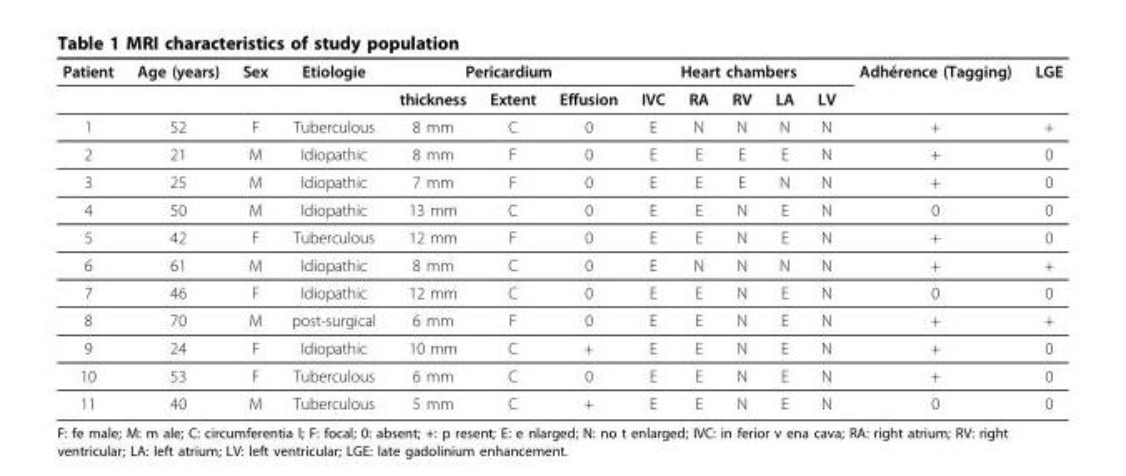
<table><thead><tr><td rowspan="2">Patient</td><td rowspan="2">Age (years)</td><td rowspan="2">Sex</td><td rowspan="2">Etiologie</td><td colspan="3">Pericardium</td><td colspan="5">Heart chambers</td><td rowspan="2">Adhérence (Tagging)</td><td rowspan="2">LGE</td></tr><tr><td>thickness</td><td>Extent</td><td>Effusion</td><td>IVC</td><td>RA</td><td>RV</td><td>LA</td><td>LV</td></tr></thead><tbody><tr><td>1</td><td>52</td><td>F</td><td>Tuberculous</td><td>8 mm</td><td>C</td><td>0</td><td>E</td><td>N</td><td>N</td><td>N</td><td>N</td><td>+</td><td>+</td></tr><tr><td>2</td><td>21</td><td>M</td><td>Idiopathic</td><td>8 mm</td><td>F</td><td>0</td><td>E</td><td>E</td><td>E</td><td>E</td><td>N</td><td>+</td><td>0</td></tr><tr><td>3</td><td>25</td><td>M</td><td>Idiopathic</td><td>7 mm</td><td>F</td><td>0</td><td>E</td><td>E</td><td>E</td><td>N</td><td>N</td><td>+</td><td>0</td></tr><tr><td>4</td><td>50</td><td>M</td><td>Idiopathic</td><td>13 mm</td><td>C</td><td>0</td><td>E</td><td>E</td><td>N</td><td>E</td><td>N</td><td>0</td><td>0</td></tr><tr><td>5</td><td>42</td><td>F</td><td>Tuberculous</td><td>12 mm</td><td>F</td><td>0</td><td>E</td><td>E</td><td>N</td><td>E</td><td>N</td><td>+</td><td>0</td></tr><tr><td>6</td><td>61</td><td>M</td><td>Idiopathic</td><td>8 mm</td><td>C</td><td>0</td><td>E</td><td>N</td><td>N</td><td>N</td><td>N</td><td>+</td><td>+</td></tr><tr><td>7</td><td>46</td><td>F</td><td>Idiopathic</td><td>12 mm</td><td>C</td><td>0</td><td>E</td><td>E</td><td>N</td><td>E</td><td>N</td><td>0</td><td>0</td></tr><tr><td>8</td><td>70</td><td>M</td><td>post-surgical</td><td>6 mm</td><td>F</td><td>0</td><td>E</td><td>E</td><td>N</td><td>E</td><td>N</td><td>+</td><td>+</td></tr><tr><td>9</td><td>24</td><td>F</td><td>Idiopathic</td><td>10 mm</td><td>C</td><td>+</td><td>E</td><td>E</td><td>N</td><td>E</td><td>N</td><td>+</td><td>0</td></tr><tr><td>10</td><td>53</td><td>F</td><td>Tuberculous</td><td>6 mm</td><td>C</td><td>0</td><td>E</td><td>E</td><td>N</td><td>E</td><td>N</td><td>+</td><td>0</td></tr><tr><td>11</td><td>40</td><td>M</td><td>Tuberculous</td><td>5 mm</td><td>C</td><td>+</td><td>E</td><td>E</td><td>N</td><td>E</td><td>N</td><td>0</td><td>0</td></tr></tbody></table>